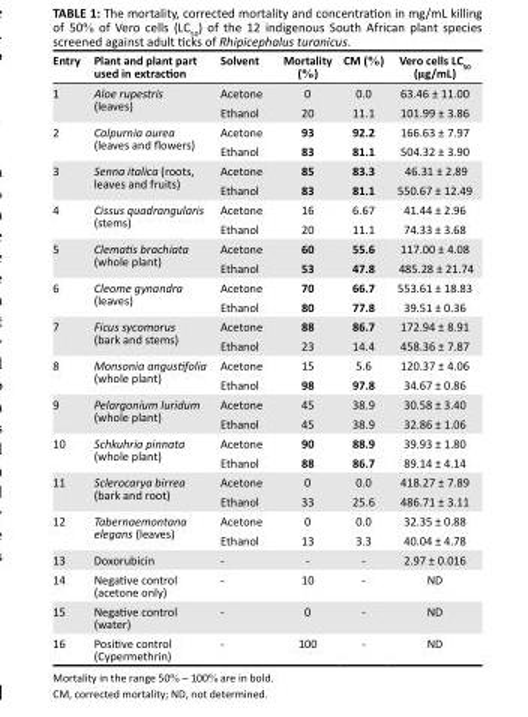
<table><thead><tr><td>Entry</td><td>Plant and plant part used in extraction</td><td>Solvent</td><td>Mortality (%)</td><td>CM (%)</td><td>Vero cells LC<sub>50</sub> (µg/mL)</td></tr></thead><tbody><tr><td rowspan="2">1</td><td rowspan="2">Aloe rupestris (leaves)</td><td>Acetone</td><td>0</td><td>0.0</td><td>63.46 ± 11.00</td></tr><tr><td>Ethanol</td><td>20</td><td>11.1</td><td>101.99 ± 3.86</td></tr><tr><td rowspan="2">2</td><td rowspan="2">Calpurnia aurea (leaves and flowers)</td><td>Acetone</td><td>93</td><td>92.2</td><td>166.63 ± 7.97</td></tr><tr><td>Ethanol</td><td>83</td><td>81.1</td><td>504.32 ± 3.90</td></tr><tr><td rowspan="2">3</td><td rowspan="2">Senna italica (roots, leaves and fruits)</td><td>Acetone</td><td>85</td><td>83.3</td><td>46.31 ± 2.89</td></tr><tr><td>Ethanol</td><td>83</td><td>81.1</td><td>550.67 ± 12.49</td></tr><tr><td rowspan="2">4</td><td rowspan="2">Cissus quadrangularis (stems)</td><td>Acetone</td><td>16</td><td>6.67</td><td>41.44 ± 2.96</td></tr><tr><td>Ethanol</td><td>20</td><td>11.1</td><td>74.33 ± 3.68</td></tr><tr><td rowspan="2">5</td><td rowspan="2">Clematis brachiata (whole plant)</td><td>Acetone</td><td>60</td><td>55.6</td><td>117.00 ± 4.08</td></tr><tr><td>Ethanol</td><td>53</td><td>47.8</td><td>485.28 ± 21.74</td></tr><tr><td rowspan="2">6</td><td rowspan="2">Cleome gynandra (leaves)</td><td>Acetone</td><td>70</td><td>66.7</td><td>553.61 ± 18.83</td></tr><tr><td>Ethanol</td><td>80</td><td>77.8</td><td>39.51 ± 0.36</td></tr><tr><td rowspan="2">7</td><td rowspan="2">Ficus sycomorus (bark and stems)</td><td>Acetone</td><td>88</td><td>86.7</td><td>172.94 ± 8.91</td></tr><tr><td>Ethanol</td><td>23</td><td>14.4</td><td>458.36 ± 7.87</td></tr><tr><td rowspan="2">8</td><td rowspan="2">Monsonia angustifolia (whole plant)</td><td>Acetone</td><td>15</td><td>5.6</td><td>120.37 ± 4.06</td></tr><tr><td>Ethanol</td><td>98</td><td>97.8</td><td>34.67 ± 0.86</td></tr><tr><td rowspan="2">9</td><td rowspan="2">Pelargonium luridum (whole plant)</td><td>Acetone</td><td>45</td><td>38.9</td><td>30.58 ± 3.40</td></tr><tr><td>Ethanol</td><td>45</td><td>38.9</td><td>32.86 ± 1.06</td></tr><tr><td rowspan="2">10</td><td rowspan="2">Schkuhria pinnata (whole plant)</td><td>Acetone</td><td>90</td><td>88.9</td><td>39.93 ± 1.80</td></tr><tr><td>Ethanol</td><td>88</td><td>86.7</td><td>89.14 ± 4.14</td></tr><tr><td rowspan="2">11</td><td rowspan="2">Sclerocarya birrea (bark and root)</td><td>Acetone</td><td>0</td><td>0.0</td><td>418.27 ± 7.89</td></tr><tr><td>Ethanol</td><td>33</td><td>25.6</td><td>486.71 ± 3.11</td></tr><tr><td rowspan="2">12</td><td rowspan="2">Tabernaemontana elegans (leaves)</td><td>Acetone</td><td>0</td><td>0.0</td><td>32.35 ± 0.88</td></tr><tr><td>Ethanol</td><td>13</td><td>3.3</td><td>40.04 ± 4.78</td></tr><tr><td>13</td><td>Doxorubicin</td><td>-</td><td>-</td><td>-</td><td>2.97 ± 0.016</td></tr><tr><td>14</td><td>Negative control (acetone only)</td><td>-</td><td>10</td><td>-</td><td>ND</td></tr><tr><td>15</td><td>Negative control (water)</td><td>-</td><td>0</td><td>-</td><td>ND</td></tr><tr><td>16</td><td>Positive control (Cypermethrin)</td><td>-</td><td>100</td><td>-</td><td>ND</td></tr></tbody></table>